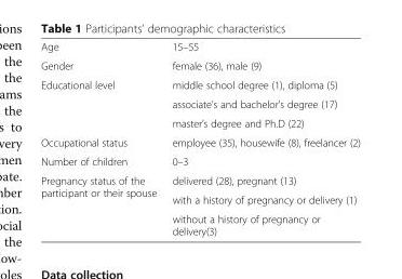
<table><tbody><tr><td>Age</td><td>15–55</td></tr><tr><td>Gender</td><td>female (36), male (9)</td></tr><tr><td rowspan="3">Educational level</td><td>middle school degree (1), diploma (5)</td></tr><tr><td>associate’s and bachelor’s degree (17)</td></tr><tr><td>master’s degree and Ph.D (22)</td></tr><tr><td>Occupational status</td><td>employee (35), housewife (8), freelancer (2)</td></tr><tr><td>Number of children</td><td>0–3</td></tr><tr><td rowspan="3">Pregnancy status of the participant or their spouse</td><td>delivered (28), pregnant (13)</td></tr><tr><td>with a history of pregnancy or delivery (1)</td></tr><tr><td>without a history of pregnancy or delivery(3)</td></tr></tbody></table>